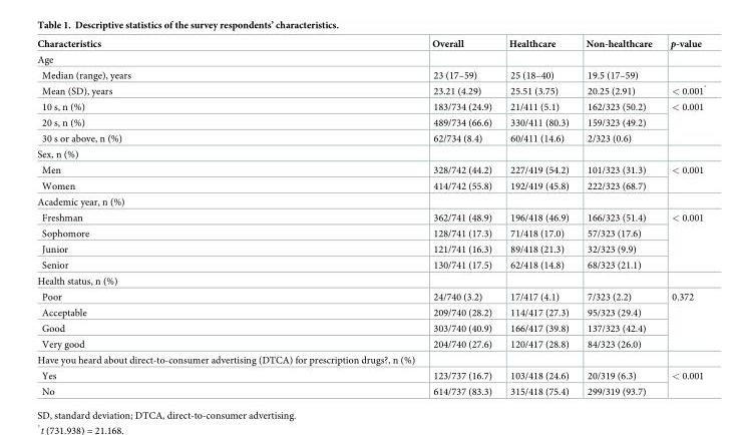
<table><thead><tr><td>Characteristics</td><td>Overall</td><td>Healthcare</td><td>Non-healthcare</td><td>p-value</td></tr></thead><tbody><tr><td colspan="5">Age</td></tr><tr><td>Median (range), years</td><td>23 (17–59)</td><td>25 (18–40)</td><td>19.5 (17–59)</td><td></td></tr><tr><td>Mean (SD), years</td><td>23.21 (4.29)</td><td>25.51 (3.75)</td><td>20.25 (2.91)</td><td>&lt; 0.001</td></tr><tr><td>10 s, n (%)</td><td>183/734 (24.9)</td><td>21/411 (5.1)</td><td>162/323 (50.2)</td><td rowspan="3">&lt; 0.001</td></tr><tr><td>20 s, n (%)</td><td>489/734 (66.6)</td><td>330/411 (80.3)</td><td>159/323 (49.2)</td></tr><tr><td>30 s or above, n (%)</td><td>62/734 (8.4)</td><td>60/411 (14.6)</td><td>2/323 (0.6)</td></tr><tr><td colspan="5">Sex, n (%)</td></tr><tr><td>Men</td><td>328/742 (44.2)</td><td>227/419 (54.2)</td><td>101/323 (31.3)</td><td rowspan="2">&lt; 0.001</td></tr><tr><td>Women</td><td>414/742 (55.8)</td><td>192/419 (45.8)</td><td>222/323 (68.7)</td></tr><tr><td colspan="5">Academic year, n (%)</td></tr><tr><td>Freshman</td><td>362/741 (48.9)</td><td>196/418 (46.9)</td><td>166/323 (51.4)</td><td rowspan="4">&lt; 0.001</td></tr><tr><td>Sophomore</td><td>128/741 (17.3)</td><td>71/418 (17.0)</td><td>57/323 (17.6)</td></tr><tr><td>Junior</td><td>121/741 (16.3)</td><td>89/418 (21.3)</td><td>32/323 (9.9)</td></tr><tr><td>Senior</td><td>130/741 (17.5)</td><td>62/418 (14.8)</td><td>68/323 (21.1)</td></tr><tr><td colspan="5">Health status, n (%)</td></tr><tr><td>Poor</td><td>24/740 (3.2)</td><td>17/417 (4.1)</td><td>7/323 (2.2)</td><td rowspan="4">0.372</td></tr><tr><td>Acceptable</td><td>209/740 (28.2)</td><td>114/417 (27.3)</td><td>95/323 (29.4)</td></tr><tr><td>Good</td><td>303/740 (40.9)</td><td>166/417 (39.8)</td><td>137/323 (42.4)</td></tr><tr><td>Very good</td><td>204/740 (27.6)</td><td>120/417 (28.8)</td><td>84/323 (26.0)</td></tr><tr><td colspan="5">Have you heard about direct-to-consumer advertising (DTCA) for prescription drugs?, n (%)</td></tr><tr><td>Yes</td><td>123/737 (16.7)</td><td>103/418 (24.6)</td><td>20/319 (6.3)</td><td rowspan="2">&lt; 0.001</td></tr><tr><td>No</td><td>614/737 (83.3)</td><td>315/418 (75.4)</td><td>299/319 (93.7)</td></tr></tbody></table>